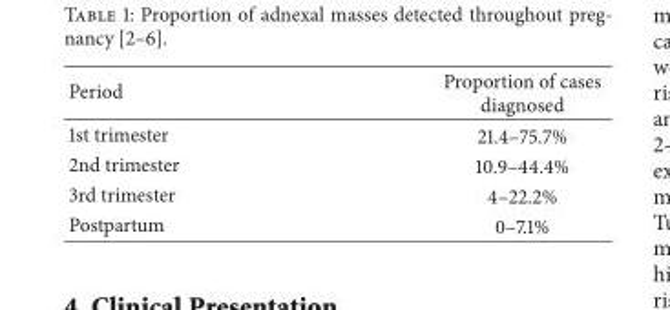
<table><thead><tr><td>Period</td><td>Proportion of cases diagnosed</td></tr></thead><tbody><tr><td>1st trimester</td><td>21.4–75.7%</td></tr><tr><td>2nd trimester</td><td>10.9–44.4%</td></tr><tr><td>3rd trimester</td><td>4–22.2%</td></tr><tr><td>Postpartum</td><td>0–7.1%</td></tr></tbody></table>